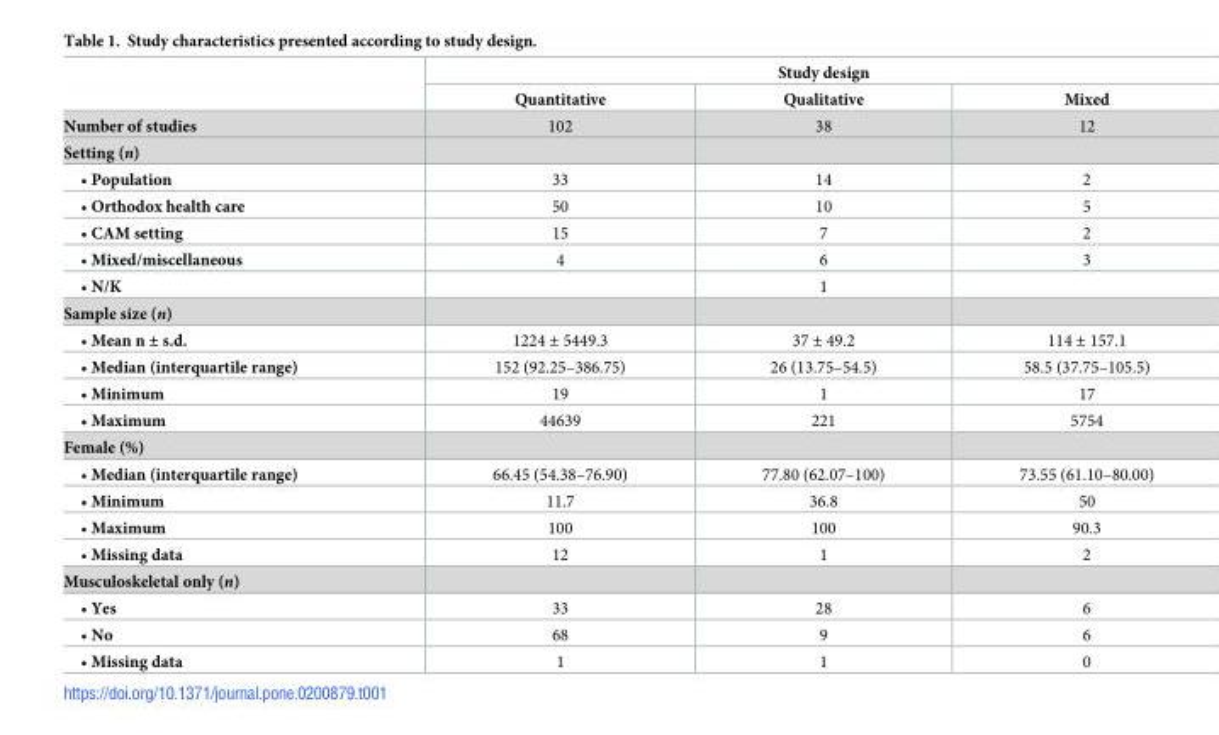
<table><thead><tr><td rowspan="2"></td><td colspan="3">Study design</td></tr><tr><td>Quantitative</td><td>Qualitative</td><td>Mixed</td></tr></thead><tbody><tr><td>Number of studies</td><td>102</td><td>38</td><td>12</td></tr><tr><td colspan="4">Setting (n)</td></tr><tr><td>• Population</td><td>33</td><td>14</td><td>2</td></tr><tr><td>• Orthodox health care</td><td>50</td><td>10</td><td>5</td></tr><tr><td>• CAM setting</td><td>15</td><td>7</td><td>2</td></tr><tr><td>• Mixed/miscellaneous</td><td>4</td><td>6</td><td>3</td></tr><tr><td>• N/K</td><td></td><td>1</td><td></td></tr><tr><td colspan="4">Sample size (n)</td></tr><tr><td>• Mean n ± s.d.</td><td>1224 ± 5449.3</td><td>37 ± 49.2</td><td>114 ± 157.1</td></tr><tr><td>• Median (interquartile range)</td><td>152 (92.25–386.75)</td><td>26 (13.75–54.5)</td><td>58.5 (37.75–105.5)</td></tr><tr><td>• Minimum</td><td>19</td><td>1</td><td>17</td></tr><tr><td>• Maximum</td><td>44639</td><td>221</td><td>5754</td></tr><tr><td colspan="4">Female (%)</td></tr><tr><td>• Median (interquartile range)</td><td>66.45 (54.38–76.90)</td><td>77.80 (62.07–100)</td><td>73.55 (61.10–80.00)</td></tr><tr><td>• Minimum</td><td>11.7</td><td>36.8</td><td>50</td></tr><tr><td>• Maximum</td><td>100</td><td>100</td><td>90.3</td></tr><tr><td>• Missing data</td><td>12</td><td>1</td><td>2</td></tr><tr><td colspan="4">Musculoskeletal only (n)</td></tr><tr><td>• Yes</td><td>33</td><td>28</td><td>6</td></tr><tr><td>• No</td><td>68</td><td>9</td><td>6</td></tr><tr><td>• Missing data</td><td>1</td><td>1</td><td>0</td></tr></tbody></table>